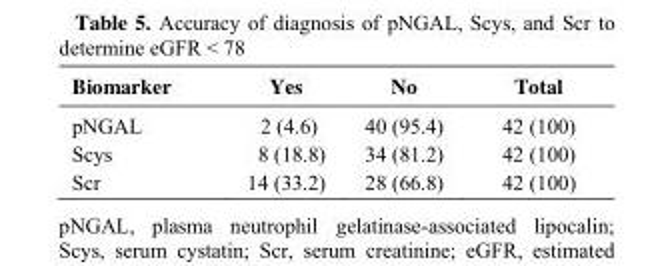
<table><thead><tr><td>Biomarker</td><td>Yes</td><td>No</td><td>Total</td></tr></thead><tbody><tr><td>pNGAL</td><td>2 (4.6)</td><td>40 (95.4)</td><td>42 (100)</td></tr><tr><td>Scys</td><td>8 (18.8)</td><td>34 (81.2)</td><td>42 (100)</td></tr><tr><td>Scr</td><td>14 (33.2)</td><td>28 (66.8)</td><td>42 (100)</td></tr></tbody></table>